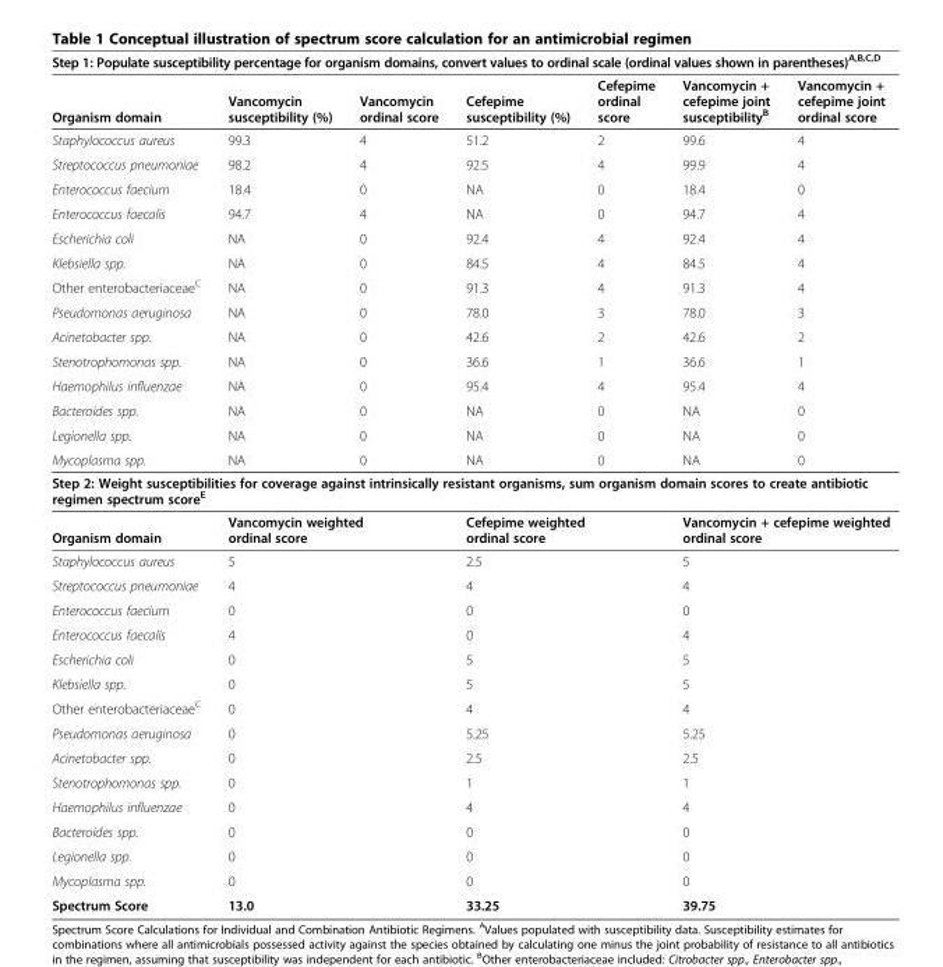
<table><thead><tr><td colspan="7">Step 1: Populate susceptibility percentage for organism domains, convert values to ordinal scale (ordinal values shown in parentheses)<sup>A,B,C,D</sup></td></tr><tr><td>Organism domain</td><td>Vancomycin susceptibility (%)</td><td>Vancomycin ordinal score</td><td>Cefepime susceptibility (%)</td><td>Cefepime ordinal score</td><td>Vancomycin + cefepime joint susceptibility<sup>B</sup></td><td>Vancomycin + cefepime joint ordinal score</td></tr></thead><tbody><tr><td>Staphylococcus aureus</td><td>99.3</td><td>4</td><td>51.2</td><td>2</td><td>99.6</td><td>4</td></tr><tr><td>Streptococcus pneumoniae</td><td>98.2</td><td>4</td><td>92.5</td><td>4</td><td>99.9</td><td>4</td></tr><tr><td>Enterococcus faecium</td><td>18.4</td><td>0</td><td>NA</td><td>0</td><td>18.4</td><td>0</td></tr><tr><td>Enterococcus faecalis</td><td>94.7</td><td>4</td><td>NA</td><td>0</td><td>94.7</td><td>4</td></tr><tr><td>Escherichia coli</td><td>NA</td><td>0</td><td>92.4</td><td>4</td><td>92.4</td><td>4</td></tr><tr><td>Klebsiella spp.</td><td>NA</td><td>0</td><td>84.5</td><td>4</td><td>84.5</td><td>4</td></tr><tr><td>Other enterobacteriaceae<sup>C</sup></td><td>NA</td><td>0</td><td>91.3</td><td>4</td><td>91.3</td><td>4</td></tr><tr><td>Pseudomonas aeruginosa</td><td>NA</td><td>0</td><td>78.0</td><td>3</td><td>78.0</td><td>3</td></tr><tr><td>Acinetobacter spp.</td><td>NA</td><td>0</td><td>42.6</td><td>2</td><td>42.6</td><td>2</td></tr><tr><td>Stenotrophomonas spp.</td><td>NA</td><td>0</td><td>36.6</td><td>1</td><td>36.6</td><td>1</td></tr><tr><td>Haemophilus influenzae</td><td>NA</td><td>0</td><td>95.4</td><td>4</td><td>95.4</td><td>4</td></tr><tr><td>Bacteroides spp.</td><td>NA</td><td>0</td><td>NA</td><td>0</td><td>NA</td><td>0</td></tr><tr><td>Legionella spp.</td><td>NA</td><td>0</td><td>NA</td><td>0</td><td>NA</td><td>0</td></tr><tr><td>Mycoplasma spp.</td><td>NA</td><td>0</td><td>NA</td><td>0</td><td>NA</td><td>0</td></tr><tr><td colspan="7">Step 2: Weight susceptibilities for coverage against intrinsically resistant organisms, sum organism domain scores to create antibiotic regimen spectrum score<sup>E</sup></td></tr><tr><td>Organism domain</td><td colspan="2">Vancomycin weighted ordinal score</td><td colspan="2">Cefepime weighted ordinal score</td><td colspan="2">Vancomycin + cefepime weighted ordinal score</td></tr><tr><td>Staphylococcus aureus</td><td colspan="2">5</td><td colspan="2">2.5</td><td colspan="2">5</td></tr><tr><td>Streptococcus pneumoniae</td><td colspan="2">4</td><td colspan="2">4</td><td colspan="2">4</td></tr><tr><td>Enterococcus faecium</td><td colspan="2">0</td><td colspan="2">0</td><td colspan="2">0</td></tr><tr><td>Enterococcus faecalis</td><td colspan="2">4</td><td colspan="2">0</td><td colspan="2">4</td></tr><tr><td>Escherichia coli</td><td colspan="2">0</td><td colspan="2">5</td><td colspan="2">5</td></tr><tr><td>Klebsiella spp.</td><td colspan="2">0</td><td colspan="2">5</td><td colspan="2">5</td></tr><tr><td>Other enterobacteriaceae<sup>C</sup></td><td colspan="2">0</td><td colspan="2">4</td><td colspan="2">4</td></tr><tr><td>Pseudomonas aeruginosa</td><td colspan="2">0</td><td colspan="2">5.25</td><td colspan="2">5.25</td></tr><tr><td>Acinetobacter spp.</td><td colspan="2">0</td><td colspan="2">2.5</td><td colspan="2">2.5</td></tr><tr><td>Stenotrophomonas spp.</td><td colspan="2">0</td><td colspan="2">1</td><td colspan="2">1</td></tr><tr><td>Haemophilus influenzae</td><td colspan="2">0</td><td colspan="2">4</td><td colspan="2">4</td></tr><tr><td>Bacteroides spp.</td><td colspan="2">0</td><td colspan="2">0</td><td colspan="2">0</td></tr><tr><td>Legionella spp.</td><td colspan="2">0</td><td colspan="2">0</td><td colspan="2">0</td></tr><tr><td>Mycoplasma spp.</td><td colspan="2">0</td><td colspan="2">0</td><td colspan="2">0</td></tr><tr><td>Spectrum Score</td><td colspan="2">13.0</td><td colspan="2">33.25</td><td colspan="2">39.75</td></tr></tbody></table>